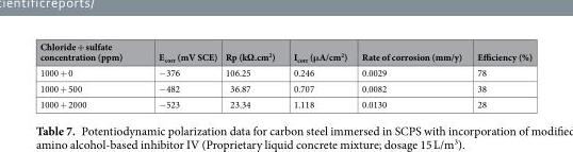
<table><thead><tr><td>Chloride + sulfate concentration (ppm)</td><td>E<sub>corr</sub> (mV SCE)</td><td>Rp (kΩ.cm<sup>2</sup>)</td><td>I<sub>corr</sub> (μA/cm<sup>2</sup>)</td><td>Rate of corrosion (mm/y)</td><td>Efficiency (%)</td></tr></thead><tbody><tr><td>1000 + 0</td><td>−376</td><td>106.25</td><td>0.246</td><td>0.0029</td><td>78</td></tr><tr><td>1000 + 500</td><td>−482</td><td>36.87</td><td>0.707</td><td>0.0082</td><td>38</td></tr><tr><td>1000 + 2000</td><td>−523</td><td>23.34</td><td>1.118</td><td>0.0130</td><td>28</td></tr></tbody></table>